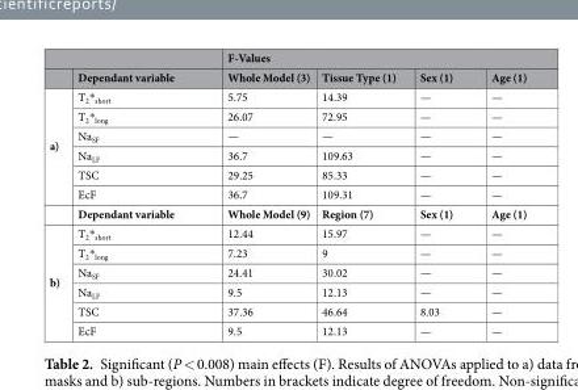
<table><thead><tr><td rowspan="2"></td><td rowspan="2">Dependant variable</td><td colspan="4">F-Values</td></tr><tr><td>Whole Model (3)</td><td>Tissue Type (1)</td><td>Sex (1)</td><td>Age (1)</td></tr></thead><tbody><tr><td rowspan="7">a)</td><td>T<sub>2</sub>*<sub>short</sub></td><td>5.75</td><td>14.39</td><td>—</td><td>—</td></tr><tr><td>T<sub>2</sub>*<sub>long</sub></td><td>26.07</td><td>72.95</td><td>—</td><td>—</td></tr><tr><td>Na<sub>SF</sub></td><td>—</td><td>—</td><td>—</td><td>—</td></tr><tr><td>Na<sub>LF</sub></td><td>36.7</td><td>109.63</td><td>—</td><td>—</td></tr><tr><td>TSC</td><td>29.25</td><td>85.33</td><td>—</td><td>—</td></tr><tr><td>EcF</td><td>36.7</td><td>109.31</td><td>—</td><td>—</td></tr><tr><td>Dependant variable</td><td>Whole Model (9)</td><td>Region (7)</td><td>Sex (1)</td><td>Age (1)</td></tr><tr><td rowspan="6">b)</td><td>T<sub>2</sub>*<sub>short</sub></td><td>12.44</td><td>15.97</td><td>—</td><td>—</td></tr><tr><td>T<sub>2</sub>*<sub>long</sub></td><td>7.23</td><td>9</td><td>—</td><td>—</td></tr><tr><td>Na<sub>SF</sub></td><td>24.41</td><td>30.02</td><td>—</td><td>—</td></tr><tr><td>Na<sub>LF</sub></td><td>9.5</td><td>12.13</td><td>—</td><td>—</td></tr><tr><td>TSC</td><td>37.36</td><td>46.64</td><td>8.03</td><td>—</td></tr><tr><td>EcF</td><td>9.5</td><td>12.13</td><td>—</td><td>—</td></tr></tbody></table>